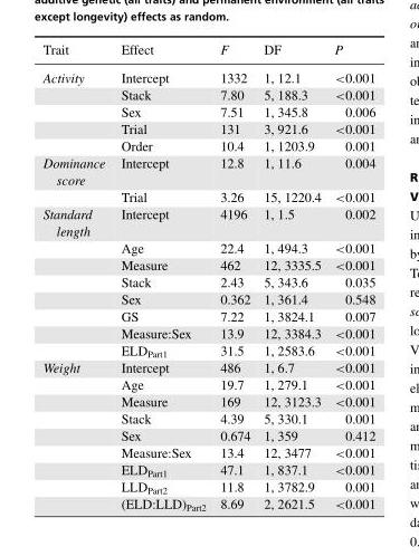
<table><thead><tr><td>Trait</td><td>Effect</td><td>F</td><td>DF</td><td>P</td></tr></thead><tbody><tr><td rowspan="5">Activity</td><td>Intercept</td><td>1332</td><td>1, 12.1</td><td>&lt;0.001</td></tr><tr><td>Stack</td><td>7.80</td><td>5, 188.3</td><td>&lt;0.001</td></tr><tr><td>Sex</td><td>7.51</td><td>1, 345.8</td><td>0.006</td></tr><tr><td>Trial</td><td>131</td><td>3, 921.6</td><td>&lt;0.001</td></tr><tr><td>Order</td><td>10.4</td><td>1, 1203.9</td><td>0.001</td></tr><tr><td rowspan="2">Dominance score</td><td>Intercept</td><td>12.8</td><td>1, 11.6</td><td>0.004</td></tr><tr><td>Trial</td><td>3.26</td><td>15, 1220.4</td><td>&lt;0.001</td></tr><tr><td rowspan="8">Standard length</td><td>Intercept</td><td>4196</td><td>1, 1.5</td><td>0.002</td></tr><tr><td>Age</td><td>22.4</td><td>1, 494.3</td><td>&lt;0.001</td></tr><tr><td>Measure</td><td>462</td><td>12, 3335.5</td><td>&lt;0.001</td></tr><tr><td>Stack</td><td>2.43</td><td>5, 343.6</td><td>0.035</td></tr><tr><td>Sex</td><td>0.362</td><td>1, 361.4</td><td>0.548</td></tr><tr><td>GS</td><td>7.22</td><td>1, 3824.1</td><td>0.007</td></tr><tr><td>Measure:Sex</td><td>13.9</td><td>12, 3384.3</td><td>&lt;0.001</td></tr><tr><td>ELD<sub>Part1</sub></td><td>31.5</td><td>1, 2583.6</td><td>&lt;0.001</td></tr><tr><td rowspan="9">Weight</td><td>Intercept</td><td>486</td><td>1, 6.7</td><td>&lt;0.001</td></tr><tr><td>Age</td><td>19.7</td><td>1, 279.1</td><td>&lt;0.001</td></tr><tr><td>Measure</td><td>169</td><td>12, 3123.3</td><td>&lt;0.001</td></tr><tr><td>Stack</td><td>4.39</td><td>5, 330.1</td><td>0.001</td></tr><tr><td>Sex</td><td>0.674</td><td>1, 359</td><td>0.412</td></tr><tr><td>Measure:Sex</td><td>13.4</td><td>12, 3477</td><td>&lt;0.001</td></tr><tr><td>ELD<sub>Part1</sub></td><td>47.1</td><td>1, 837.1</td><td>&lt;0.001</td></tr><tr><td>LLD<sub>Part2</sub></td><td>11.8</td><td>1, 3782.9</td><td>0.001</td></tr><tr><td>(ELD:LLD)<sub>Part2</sub></td><td>8.69</td><td>2, 2621.5</td><td>&lt;0.001</td></tr></tbody></table>